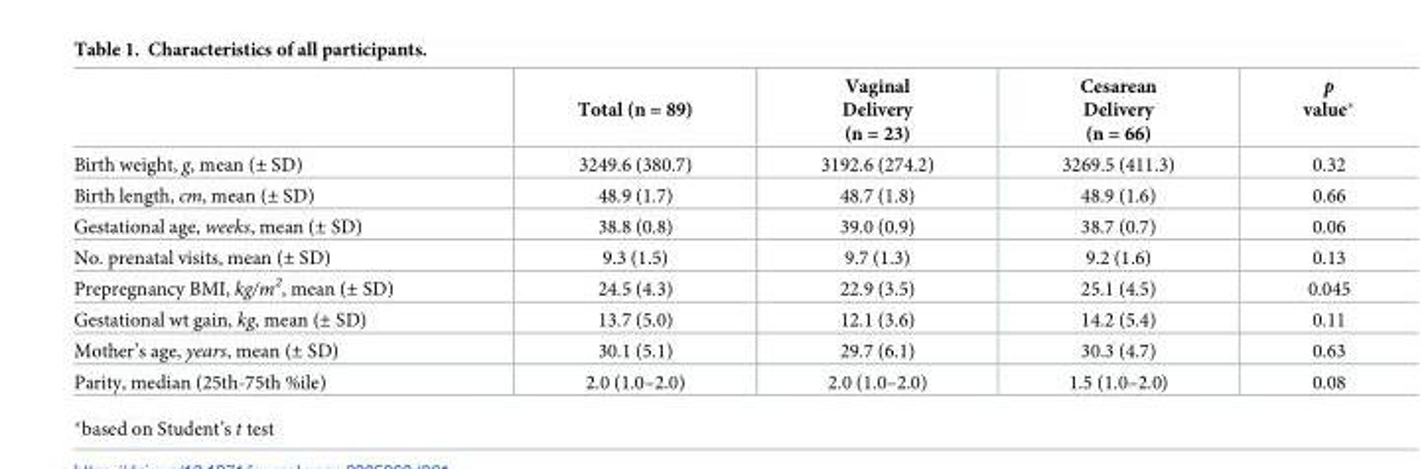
<table><thead><tr><td></td><td>Total (n = 89)</td><td>Vaginal Delivery (n = 23)</td><td>Cesarean Delivery (n = 66)</td><td>p value*</td></tr></thead><tbody><tr><td>Birth weight, g, mean (± SD)</td><td>3249.6 (380.7)</td><td>3192.6 (274.2)</td><td>3269.5 (411.3)</td><td>0.32</td></tr><tr><td>Birth length, cm, mean (± SD)</td><td>48.9 (1.7)</td><td>48.7 (1.8)</td><td>48.9 (1.6)</td><td>0.66</td></tr><tr><td>Gestational age, weeks, mean (± SD)</td><td>38.8 (0.8)</td><td>39.0 (0.9)</td><td>38.7 (0.7)</td><td>0.06</td></tr><tr><td>No. prenatal visits, mean (± SD)</td><td>9.3 (1.5)</td><td>9.7 (1.3)</td><td>9.2 (1.6)</td><td>0.13</td></tr><tr><td>Prepregnancy BMI, kg/m<sup>2</sup>, mean (± SD)</td><td>24.5 (4.3)</td><td>22.9 (3.5)</td><td>25.1 (4.5)</td><td>0.045</td></tr><tr><td>Gestational wt gain, kg, mean (± SD)</td><td>13.7 (5.0)</td><td>12.1 (3.6)</td><td>14.2 (5.4)</td><td>0.11</td></tr><tr><td>Mother’s age, years, mean (± SD)</td><td>30.1 (5.1)</td><td>29.7 (6.1)</td><td>30.3 (4.7)</td><td>0.63</td></tr><tr><td>Parity, median (25th-75th %ile)</td><td>2.0 (1.0–2.0)</td><td>2.0 (1.0–2.0)</td><td>1.5 (1.0–2.0)</td><td>0.08</td></tr></tbody></table>